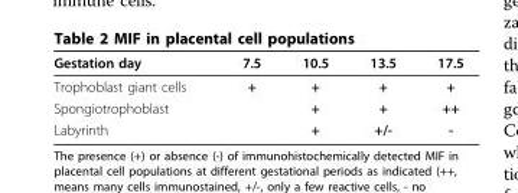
<table><thead><tr><td>Gestation day</td><td>7.5</td><td>10.5</td><td>13.5</td><td>17.5</td></tr></thead><tbody><tr><td>Trophoblast giant cells</td><td>+</td><td>+</td><td>+</td><td>+</td></tr><tr><td>Spongiotrophoblast</td><td></td><td>+</td><td>+</td><td>++</td></tr><tr><td>Labyrinth</td><td></td><td>+</td><td>+/-</td><td>-</td></tr></tbody></table>